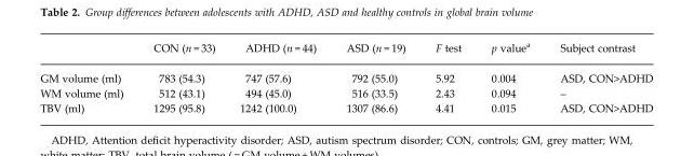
<table><thead><tr><td></td><td>CON (n = 33)</td><td>ADHD (n = 44)</td><td>ASD (n = 19)</td><td>F test</td><td>p value<sup>a</sup></td><td>Subject contrast</td></tr></thead><tbody><tr><td>GM volume (ml)</td><td>783 (54.3)</td><td>747 (57.6)</td><td>792 (55.0)</td><td>5.92</td><td>0.004</td><td>ASD, CON&gt;ADHD</td></tr><tr><td>WM volume (ml)</td><td>512 (43.1)</td><td>494 (45.0)</td><td>516 (33.5)</td><td>2.43</td><td>0.094</td><td>–</td></tr><tr><td>TBV (ml)</td><td>1295 (95.8)</td><td>1242 (100.0)</td><td>1307 (86.6)</td><td>4.41</td><td>0.015</td><td>ASD, CON&gt;ADHD</td></tr></tbody></table>